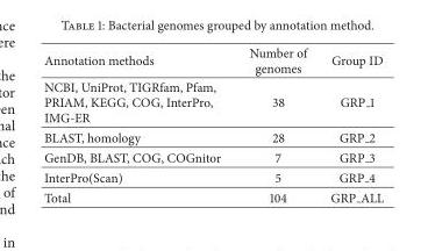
<table><thead><tr><td>Annotation methods</td><td>Number of genomes</td><td>Group ID</td></tr></thead><tbody><tr><td>NCBI, UniProt, TIGRfam, Pfam, PRIAM, KEGG, COG, InterPro, IMG-ER</td><td>38</td><td>GRP 1</td></tr><tr><td>BLAST, homology</td><td>28</td><td>GRP 2</td></tr><tr><td>GenDB, BLAST, COG, COGnitor</td><td>7</td><td>GRP 3</td></tr><tr><td>InterPro(Scan)</td><td>5</td><td>GRP 4</td></tr><tr><td>Total</td><td>104</td><td>GRP ALL</td></tr></tbody></table>